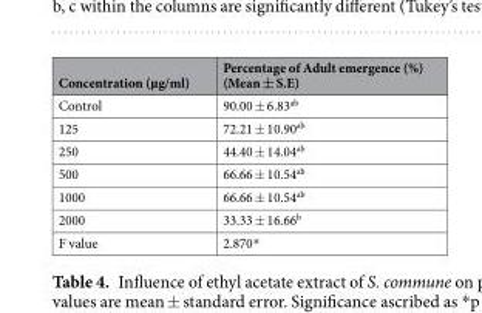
<table><thead><tr><td>Concentration (µg/ml)</td><td>Percentage of Adult emergence (%) (Mean ± S.E)</td></tr></thead><tbody><tr><td>Control</td><td>90.00 ± 6.83<sup>ab</sup></td></tr><tr><td>125</td><td>72.21 ± 10.90<sup>ab</sup></td></tr><tr><td>250</td><td>44.40 ± 14.04<sup>ab</sup></td></tr><tr><td>500</td><td>66.66 ± 10.54<sup>ab</sup></td></tr><tr><td>1000</td><td>66.66 ± 10.54<sup>ab</sup></td></tr><tr><td>2000</td><td>33.33 ± 16.66<sup>b</sup></td></tr><tr><td>F value</td><td>2.870*</td></tr></tbody></table>